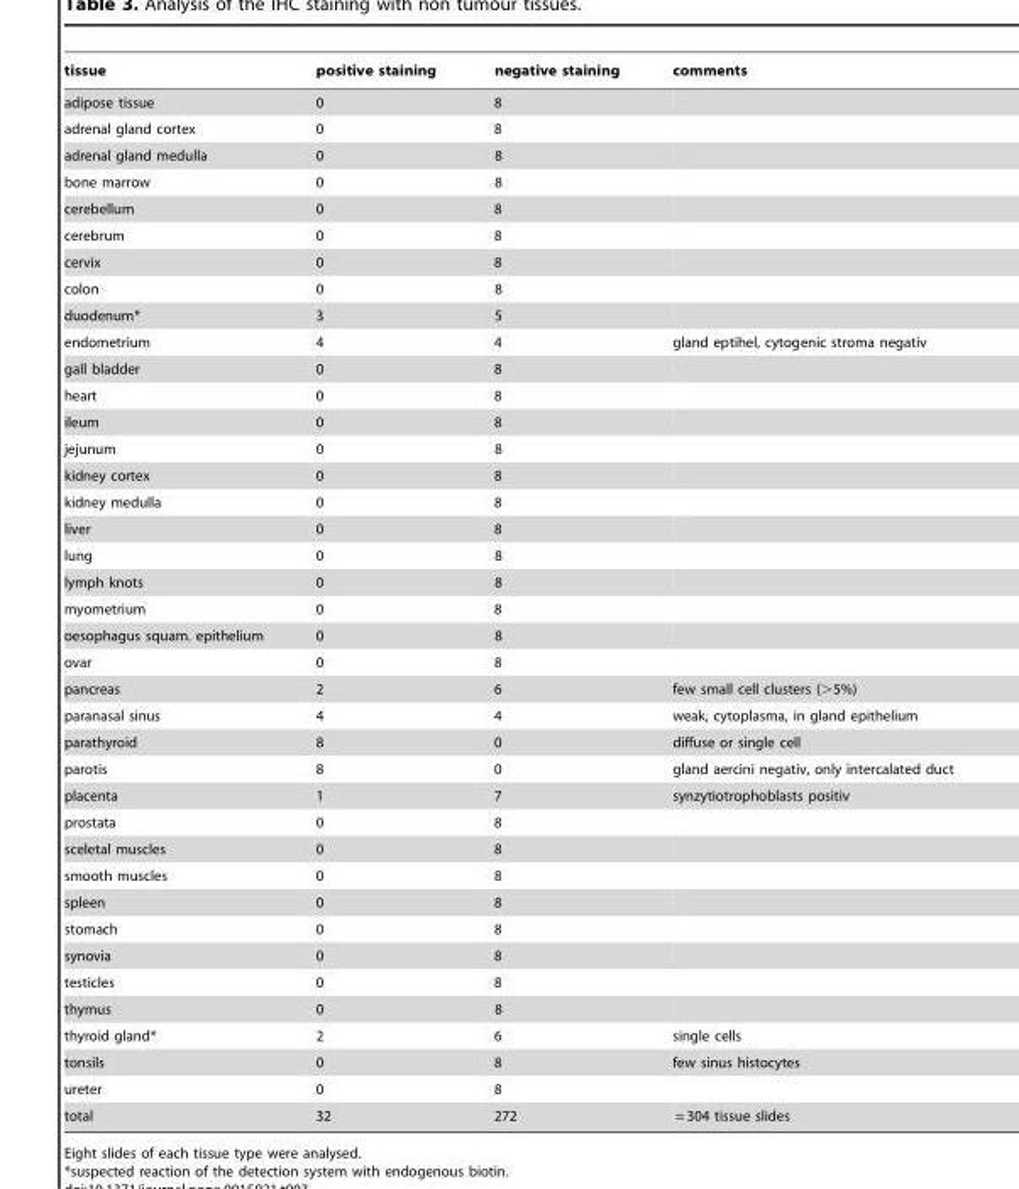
<table><thead><tr><td>tissue</td><td>positive staining</td><td>negative staining</td><td>comments</td></tr></thead><tbody><tr><td>adipose tissue</td><td>0</td><td>8</td><td></td></tr><tr><td>adrenal gland cortex</td><td>0</td><td>8</td><td></td></tr><tr><td>adrenal gland medulla</td><td>0</td><td>8</td><td></td></tr><tr><td>bone marrow</td><td>0</td><td>8</td><td></td></tr><tr><td>cerebellum</td><td>0</td><td>8</td><td></td></tr><tr><td>cerebrum</td><td>0</td><td>8</td><td></td></tr><tr><td>cervix</td><td>0</td><td>8</td><td></td></tr><tr><td>colon</td><td>0</td><td>8</td><td></td></tr><tr><td>duodenum*</td><td>3</td><td>5</td><td></td></tr><tr><td>endometrium</td><td>4</td><td>4</td><td>gland eptihel, cytogenic stroma negativ</td></tr><tr><td>gall bladder</td><td>0</td><td>8</td><td></td></tr><tr><td>heart</td><td>0</td><td>8</td><td></td></tr><tr><td>ileum</td><td>0</td><td>8</td><td></td></tr><tr><td>jejunum</td><td>0</td><td>8</td><td></td></tr><tr><td>kidney cortex</td><td>0</td><td>8</td><td></td></tr><tr><td>kidney medulla</td><td>0</td><td>8</td><td></td></tr><tr><td>liver</td><td>0</td><td>8</td><td></td></tr><tr><td>lung</td><td>0</td><td>8</td><td></td></tr><tr><td>lymph knots</td><td>0</td><td>8</td><td></td></tr><tr><td>myometrium</td><td>0</td><td>8</td><td></td></tr><tr><td>oesophagus squam. epithelium</td><td>0</td><td>8</td><td></td></tr><tr><td>ovar</td><td>0</td><td>8</td><td></td></tr><tr><td>pancreas</td><td>2</td><td>6</td><td>few small cell clusters (&gt;5%)</td></tr><tr><td>paranasal sinus</td><td>4</td><td>4</td><td>weak, cytoplasma, in gland epithelium</td></tr><tr><td>parathyroid</td><td>8</td><td>0</td><td>diffuse or single cell</td></tr><tr><td>parotis</td><td>8</td><td>0</td><td>gland aercini negativ, only intercalated duct</td></tr><tr><td>placenta</td><td>1</td><td>7</td><td>synzytiotrophoblasts positiv</td></tr><tr><td>prostata</td><td>0</td><td>8</td><td></td></tr><tr><td>sceletal muscles</td><td>0</td><td>8</td><td></td></tr><tr><td>smooth muscles</td><td>0</td><td>8</td><td></td></tr><tr><td>spleen</td><td>0</td><td>8</td><td></td></tr><tr><td>stomach</td><td>0</td><td>8</td><td></td></tr><tr><td>synovia</td><td>0</td><td>8</td><td></td></tr><tr><td>testicles</td><td>0</td><td>8</td><td></td></tr><tr><td>thymus</td><td>0</td><td>8</td><td></td></tr><tr><td>thyroid gland*</td><td>2</td><td>6</td><td>single cells</td></tr><tr><td>tonsils</td><td>0</td><td>8</td><td>few sinus histocytes</td></tr><tr><td>ureter</td><td>0</td><td>8</td><td></td></tr><tr><td>total</td><td>32</td><td>272</td><td>= 304 tissue slides</td></tr></tbody></table>